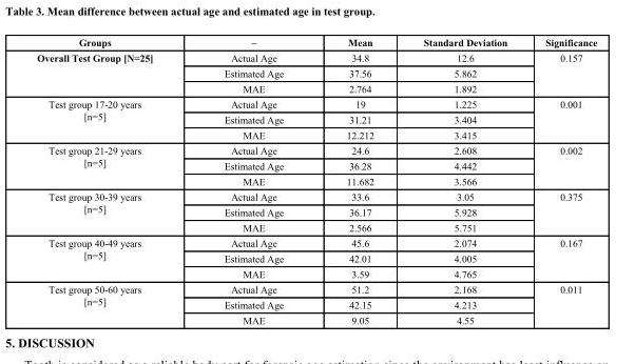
<table><thead><tr><td>Groups</td><td>–</td><td>Mean</td><td>Standard Deviation</td><td>Significance</td></tr></thead><tbody><tr><td rowspan="3">Overall Test Group [N=25]</td><td>Actual Age</td><td>34.8</td><td>12.6</td><td rowspan="3">0.157</td></tr><tr><td>Estimated Age</td><td>37.56</td><td>5.862</td></tr><tr><td>MAE</td><td>2.764</td><td>1.892</td></tr><tr><td rowspan="3">Test group 17-20 years [n=5]</td><td>Actual Age</td><td>19</td><td>1.225</td><td rowspan="3">0.001</td></tr><tr><td>Estimated Age</td><td>31.21</td><td>3.404</td></tr><tr><td>MAE</td><td>12.212</td><td>3.415</td></tr><tr><td rowspan="3">Test group 21-29 years [n=5]</td><td>Actual Age</td><td>24.6</td><td>2.608</td><td rowspan="3">0.002</td></tr><tr><td>Estimated Age</td><td>36.28</td><td>4.442</td></tr><tr><td>MAE</td><td>11.682</td><td>3.566</td></tr><tr><td rowspan="3">Test group 30-39 years [n=5]</td><td>Actual Age</td><td>33.6</td><td>3.05</td><td rowspan="3">0.375</td></tr><tr><td>Estimated Age</td><td>36.17</td><td>5.928</td></tr><tr><td>MAE</td><td>2.566</td><td>5.751</td></tr><tr><td rowspan="3">Test group 40-49 years [n=5]</td><td>Actual Age</td><td>45.6</td><td>2.074</td><td rowspan="3">0.167</td></tr><tr><td>Estimated Age</td><td>42.01</td><td>4.005</td></tr><tr><td>MAE</td><td>3.59</td><td>4.765</td></tr><tr><td rowspan="3">Test group 50-60 years [n=5]</td><td>Actual Age</td><td>51.2</td><td>2.168</td><td rowspan="3">0.011</td></tr><tr><td>Estimated Age</td><td>42.15</td><td>4.213</td></tr><tr><td>MAE</td><td>9.05</td><td>4.55</td></tr></tbody></table>